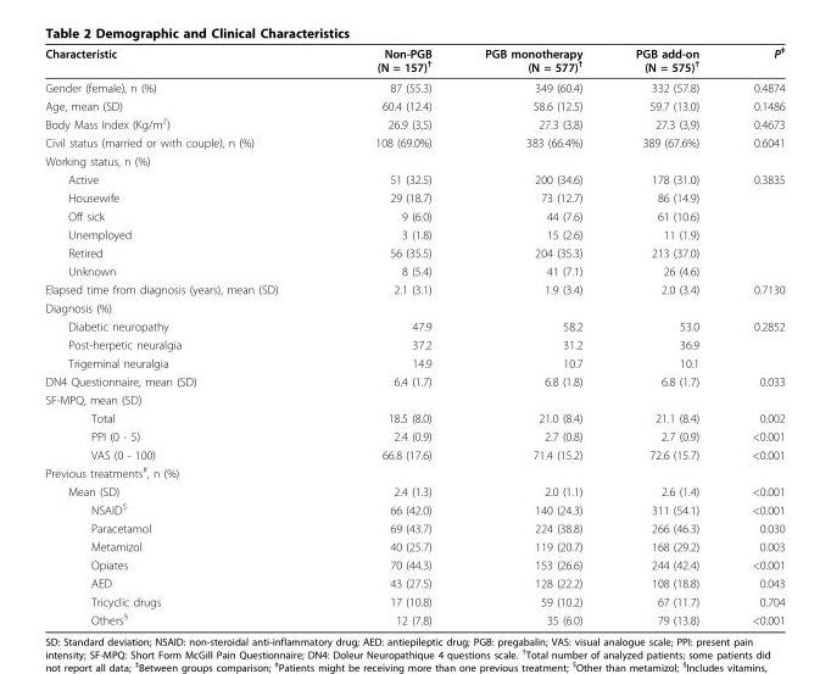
<table><thead><tr><td>Characteristic</td><td>Non-PGB (N = 157)<sup>†</sup></td><td>PGB monotherapy (N = 577)<sup>†</sup></td><td>PGB add-on (N = 575)<sup>†</sup></td><td>P<sup>‡</sup></td></tr></thead><tbody><tr><td>Gender (female), n (%)</td><td>87 (55.3)</td><td>349 (60.4)</td><td>332 (57.8)</td><td>0.4874</td></tr><tr><td>Age, mean (SD)</td><td>60.4 (12.4)</td><td>58.6 (12.5)</td><td>59.7 (13.0)</td><td>0.1486</td></tr><tr><td>Body Mass Index (Kg/m<sup>2</sup>)</td><td>26.9 (3,5)</td><td>27.3 (3,8)</td><td>27.3 (3,9)</td><td>0.4673</td></tr><tr><td>Civil status (married or with couple), n (%)</td><td>108 (69.0%)</td><td>383 (66.4%)</td><td>389 (67.6%)</td><td>0.6041</td></tr><tr><td colspan="5">Working status, n (%)</td></tr><tr><td>Active</td><td>51 (32.5)</td><td>200 (34.6)</td><td>178 (31.0)</td><td>0.3835</td></tr><tr><td>Housewife</td><td>29 (18.7)</td><td>73 (12.7)</td><td>86 (14.9)</td><td></td></tr><tr><td>Off sick</td><td>9 (6.0)</td><td>44 (7.6)</td><td>61 (10.6)</td><td></td></tr><tr><td>Unemployed</td><td>3 (1.8)</td><td>15 (2.6)</td><td>11 (1.9)</td><td></td></tr><tr><td>Retired</td><td>56 (35.5)</td><td>204 (35.3)</td><td>213 (37.0)</td><td></td></tr><tr><td>Unknown</td><td>8 (5.4)</td><td>41 (7.1)</td><td>26 (4.6)</td><td></td></tr><tr><td>Elapsed time from diagnosis (years), mean (SD)</td><td>2.1 (3.1)</td><td>1.9 (3.4)</td><td>2.0 (3.4)</td><td>0.7130</td></tr><tr><td colspan="5">Diagnosis (%)</td></tr><tr><td>Diabetic neuropathy</td><td>47.9</td><td>58.2</td><td>53.0</td><td>0.2852</td></tr><tr><td>Post-herpetic neuralgia</td><td>37.2</td><td>31.2</td><td>36.9</td><td></td></tr><tr><td>Trigeminal neuralgia</td><td>14.9</td><td>10.7</td><td>10.1</td><td></td></tr><tr><td>DN4 Questionnaire, mean (SD)</td><td>6.4 (1.7)</td><td>6.8 (1.8)</td><td>6.8 (1.7)</td><td>0.033</td></tr><tr><td colspan="5">SF-MPQ, mean (SD)</td></tr><tr><td>Total</td><td>18.5 (8.0)</td><td>21.0 (8.4)</td><td>21.1 (8.4)</td><td>0.002</td></tr><tr><td>PPI (0 - 5)</td><td>2.4 (0.9)</td><td>2.7 (0.8)</td><td>2.7 (0.9)</td><td>&lt;0.001</td></tr><tr><td>VAS (0 - 100)</td><td>66.8 (17.6)</td><td>71.4 (15.2)</td><td>72.6 (15.7)</td><td>&lt;0.001</td></tr><tr><td colspan="5">Previous treatments<sup>#</sup>, n (%)</td></tr><tr><td>Mean (SD)</td><td>2.4 (1.3)</td><td>2.0 (1.1)</td><td>2.6 (1.4)</td><td>&lt;0.001</td></tr><tr><td>NSAID<sup>$</sup></td><td>66 (42.0)</td><td>140 (24.3)</td><td>311 (54.1)</td><td>&lt;0.001</td></tr><tr><td>Paracetamol</td><td>69 (43.7)</td><td>224 (38.8)</td><td>266 (46.3)</td><td>0.030</td></tr><tr><td>Metamizol</td><td>40 (25.7)</td><td>119 (20.7)</td><td>168 (29.2)</td><td>0.003</td></tr><tr><td>Opiates</td><td>70 (44.3)</td><td>153 (26.6)</td><td>244 (42.4)</td><td>&lt;0.001</td></tr><tr><td>AED</td><td>43 (27.5)</td><td>128 (22.2)</td><td>108 (18.8)</td><td>0.043</td></tr><tr><td>Tricyclic drugs</td><td>17 (10.8)</td><td>59 (10.2)</td><td>67 (11.7)</td><td>0.704</td></tr><tr><td>Others<sup>§</sup></td><td>12 (7.8)</td><td>35 (6.0)</td><td>79 (13.8)</td><td>&lt;0.001</td></tr></tbody></table>